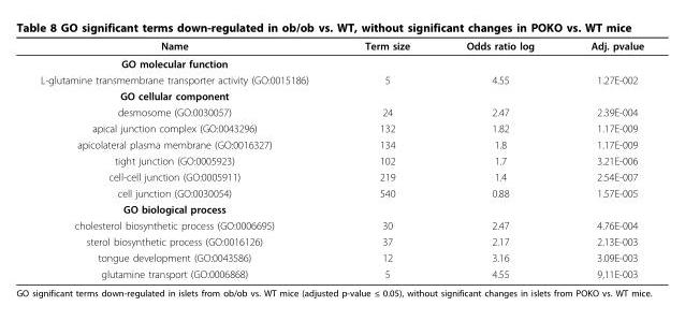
<table><thead><tr><td>Name</td><td>Term size</td><td>Odds ratio log</td><td>Adj. pvalue</td></tr></thead><tbody><tr><td colspan="4">GO molecular function</td></tr><tr><td>L-glutamine transmembrane transporter activity (GO:0015186)</td><td>5</td><td>4.55</td><td>1.27E-002</td></tr><tr><td colspan="4">GO cellular component</td></tr><tr><td>desmosome (GO:0030057)</td><td>24</td><td>2.47</td><td>2.39E-004</td></tr><tr><td>apical junction complex (GO:0043296)</td><td>132</td><td>1.82</td><td>1.17E-009</td></tr><tr><td>apicolateral plasma membrane (GO:0016327)</td><td>134</td><td>1.8</td><td>1.17E-009</td></tr><tr><td>tight junction (GO:0005923)</td><td>102</td><td>1.7</td><td>3.21E-006</td></tr><tr><td>cell-cell junction (GO:0005911)</td><td>219</td><td>1.4</td><td>2.54E-007</td></tr><tr><td>cell junction (GO:0030054)</td><td>540</td><td>0.88</td><td>1.57E-005</td></tr><tr><td colspan="4">GO biological process</td></tr><tr><td>cholesterol biosynthetic process (GO:0006695)</td><td>30</td><td>2.47</td><td>4.76E-004</td></tr><tr><td>sterol biosynthetic process (GO:0016126)</td><td>37</td><td>2.17</td><td>2.13E-003</td></tr><tr><td>tongue development (GO:0043586)</td><td>12</td><td>3.16</td><td>3.09E-003</td></tr><tr><td>glutamine transport (GO:0006868)</td><td>5</td><td>4.55</td><td>9,11E-003</td></tr></tbody></table>